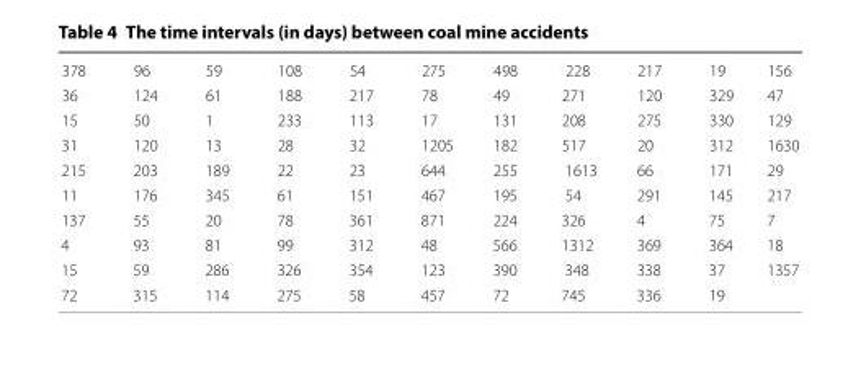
<table><tbody><tr><td>378</td><td>96</td><td>59</td><td>108</td><td>54</td><td>275</td><td>498</td><td>228</td><td>217</td><td>19</td><td>156</td></tr><tr><td>36</td><td>124</td><td>61</td><td>188</td><td>217</td><td>78</td><td>49</td><td>271</td><td>120</td><td>329</td><td>47</td></tr><tr><td>15</td><td>50</td><td>1</td><td>233</td><td>113</td><td>17</td><td>131</td><td>208</td><td>275</td><td>330</td><td>129</td></tr><tr><td>31</td><td>120</td><td>13</td><td>28</td><td>32</td><td>1205</td><td>182</td><td>517</td><td>20</td><td>312</td><td>1630</td></tr><tr><td>215</td><td>203</td><td>189</td><td>22</td><td>23</td><td>644</td><td>255</td><td>1613</td><td>66</td><td>171</td><td>29</td></tr><tr><td>11</td><td>176</td><td>345</td><td>61</td><td>151</td><td>467</td><td>195</td><td>54</td><td>291</td><td>145</td><td>217</td></tr><tr><td>137</td><td>55</td><td>20</td><td>78</td><td>361</td><td>871</td><td>224</td><td>326</td><td>4</td><td>75</td><td>7</td></tr><tr><td>4</td><td>93</td><td>81</td><td>99</td><td>312</td><td>48</td><td>566</td><td>1312</td><td>369</td><td>364</td><td>18</td></tr><tr><td>15</td><td>59</td><td>286</td><td>326</td><td>354</td><td>123</td><td>390</td><td>348</td><td>338</td><td>37</td><td>1357</td></tr><tr><td>72</td><td>315</td><td>114</td><td>275</td><td>58</td><td>457</td><td>72</td><td>745</td><td>336</td><td>19</td><td></td></tr></tbody></table>